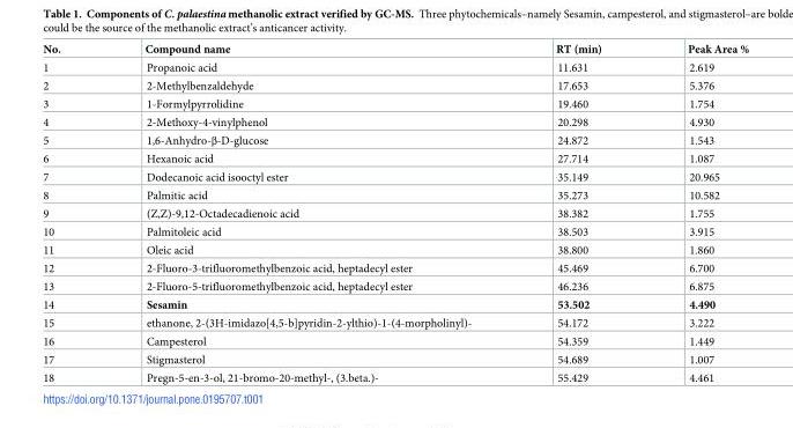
<table><thead><tr><td>No.</td><td>Compound name</td><td>RT (min)</td><td>Peak Area %</td></tr></thead><tbody><tr><td>1</td><td>Propanoic acid</td><td>11.631</td><td>2.619</td></tr><tr><td>2</td><td>2-Methylbenzaldehyde</td><td>17.653</td><td>5.376</td></tr><tr><td>3</td><td>1-Formylpyrrolidine</td><td>19.460</td><td>1.754</td></tr><tr><td>4</td><td>2-Methoxy-4-vinylphenol</td><td>20.298</td><td>4.930</td></tr><tr><td>5</td><td>1,6-Anhydro-β-D-glucose</td><td>24.872</td><td>1.543</td></tr><tr><td>6</td><td>Hexanoic acid</td><td>27.714</td><td>1.087</td></tr><tr><td>7</td><td>Dodecanoic acid isooctyl ester</td><td>35.149</td><td>20.965</td></tr><tr><td>8</td><td>Palmitic acid</td><td>35.273</td><td>10.582</td></tr><tr><td>9</td><td>(Z,Z)-9,12-Octadecadienoic acid</td><td>38.382</td><td>1.755</td></tr><tr><td>10</td><td>Palmitoleic acid</td><td>38.503</td><td>3.915</td></tr><tr><td>11</td><td>Oleic acid</td><td>38.800</td><td>1.860</td></tr><tr><td>12</td><td>2-Fluoro-3-trifluoromethylbenzoic acid, heptadecyl ester</td><td>45.469</td><td>6.700</td></tr><tr><td>13</td><td>2-Fluoro-5-trifluoromethylbenzoic acid, heptadecyl ester</td><td>46.236</td><td>6.875</td></tr><tr><td>14</td><td>Sesamin</td><td>53.502</td><td>4.490</td></tr><tr><td>15</td><td>ethanone, 2-(3H-imidazo[4,5-b]pyridin-2-ylthio)-1-(4-morpholinyl)-</td><td>54.172</td><td>3.222</td></tr><tr><td>16</td><td>Campesterol</td><td>54.359</td><td>1.449</td></tr><tr><td>17</td><td>Stigmasterol</td><td>54.689</td><td>1.007</td></tr><tr><td>18</td><td>Pregn-5-en-3-ol, 21-bromo-20-methyl-, (3.beta.)-</td><td>55.429</td><td>4.461</td></tr></tbody></table>